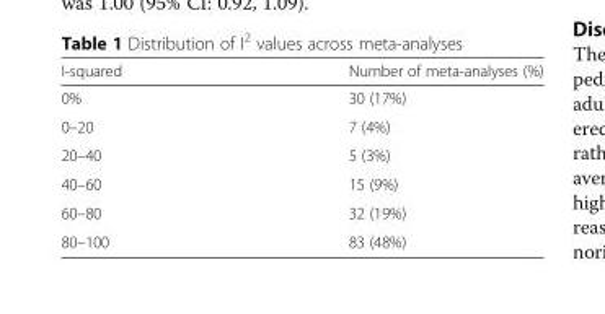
<table><thead><tr><td>I-squared</td><td>Number of meta-analyses (%)</td></tr></thead><tbody><tr><td>0%</td><td>30 (17%)</td></tr><tr><td>0–20</td><td>7 (4%)</td></tr><tr><td>20–40</td><td>5 (3%)</td></tr><tr><td>40–60</td><td>15 (9%)</td></tr><tr><td>60–80</td><td>32 (19%)</td></tr><tr><td>80–100</td><td>83 (48%)</td></tr></tbody></table>